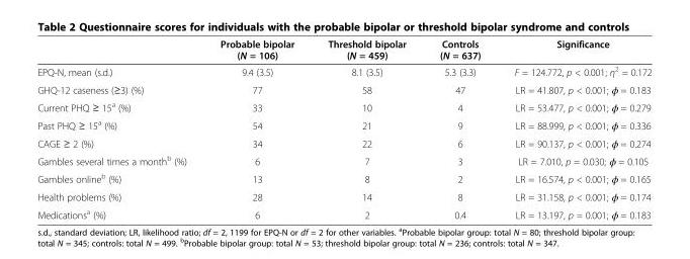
<table><thead><tr><td></td><td>Probable bipolar (N = 106)</td><td>Threshold bipolar (N = 459)</td><td>Controls (N = 637)</td><td>Significance</td></tr></thead><tbody><tr><td>EPQ-N, mean (s.d.)</td><td>9.4 (3.5)</td><td>8.1 (3.5)</td><td>5.3 (3.3)</td><td>F = 124.772, p &lt; 0.001; η<sup>2</sup> = 0.172</td></tr><tr><td>GHQ-12 caseness (≥3) (%)</td><td>77</td><td>58</td><td>47</td><td>LR = 41.807, p &lt; 0.001; ϕ = 0.183</td></tr><tr><td>Current PHQ ≥ 15<sup>a</sup> (%)</td><td>33</td><td>10</td><td>4</td><td>LR = 53.477, p &lt; 0.001; ϕ = 0.279</td></tr><tr><td>Past PHQ ≥ 15<sup>a</sup> (%)</td><td>54</td><td>21</td><td>9</td><td>LR = 88.999, p &lt; 0.001; ϕ = 0.336</td></tr><tr><td>CAGE ≥ 2 (%)</td><td>34</td><td>22</td><td>6</td><td>LR = 90.137, p &lt; 0.001; ϕ = 0.274</td></tr><tr><td>Gambles several times a month<sup>b</sup> (%)</td><td>6</td><td>7</td><td>3</td><td>LR = 7.010, p = 0.030; ϕ = 0.105</td></tr><tr><td>Gambles online<sup>b</sup> (%)</td><td>13</td><td>8</td><td>2</td><td>LR = 16.574, p &lt; 0.001; ϕ = 0.165</td></tr><tr><td>Health problems (%)</td><td>28</td><td>14</td><td>8</td><td>LR = 31.158, p &lt; 0.001; ϕ = 0.174</td></tr><tr><td>Medications<sup>a</sup> (%)</td><td>6</td><td>2</td><td>0.4</td><td>LR = 13.197, p = 0.001; ϕ = 0.183</td></tr></tbody></table>